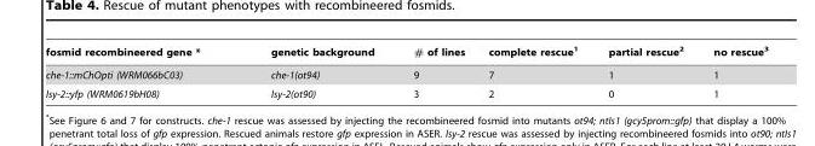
<table><thead><tr><td>fosmid recombineered gene *</td><td>genetic background</td><td># of lines</td><td>complete rescue<sup>1</sup></td><td>partial rescue<sup>2</sup></td><td>no rescue<sup>3</sup></td></tr></thead><tbody><tr><td>che-1::mChOpti (WRM066bC03)</td><td>che-1(ot94)</td><td>9</td><td>7</td><td>1</td><td>1</td></tr><tr><td>lsy-2::yfp (WRM0619bH08)</td><td>lsy-2(ot90)</td><td>3</td><td>2</td><td>0</td><td>1</td></tr></tbody></table>